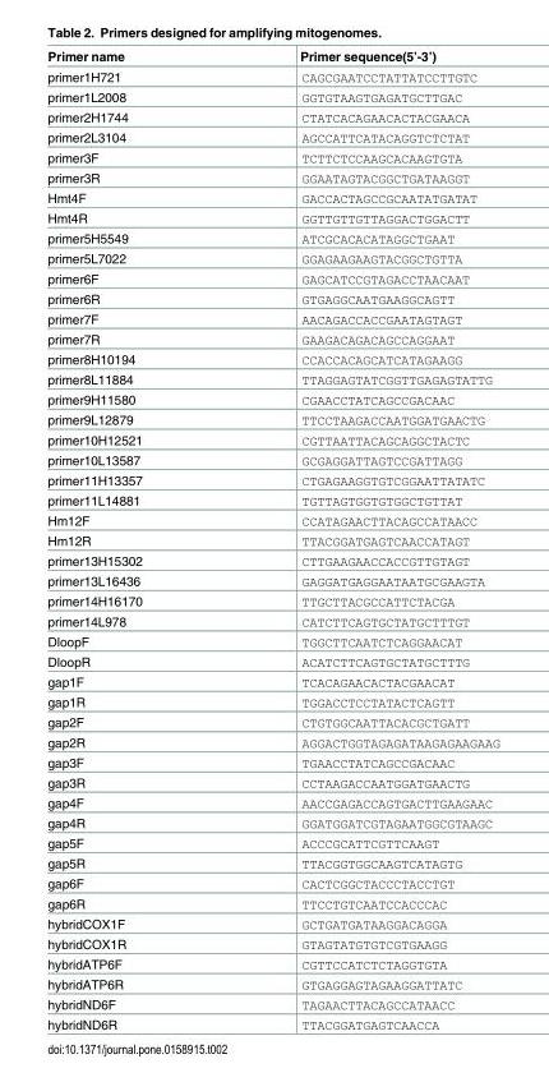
<table><thead><tr><td>Primer name</td><td>Primer sequence(5’-3’)</td></tr></thead><tbody><tr><td>primer1H721</td><td>CAGCGAATCCTATTATCCTTGTC</td></tr><tr><td>primer1L2008</td><td>GGTGTAAGTGAGATGCTTGAC</td></tr><tr><td>primer2H1744</td><td>CTATCACAGAACACTACGAACA</td></tr><tr><td>primer2L3104</td><td>AGCCATTCATACAGGTCTCTAT</td></tr><tr><td>primer3F</td><td>TCTTCTCCAAGCACAAGTGTA</td></tr><tr><td>primer3R</td><td>GGAATAGTACGGCTGATAAGGT</td></tr><tr><td>Hmt4F</td><td>GACCACTAGCCGCAATATGATAT</td></tr><tr><td>Hmt4R</td><td>GGTTGTTGTTAGGACTGGACTT</td></tr><tr><td>primer5H5549</td><td>ATCGCACACATAGGCTGAAT</td></tr><tr><td>primer5L7022</td><td>GGAGAAGAAGTACGGCTGTTA</td></tr><tr><td>primer6F</td><td>GAGCATCCGTAGACCTAACAAT</td></tr><tr><td>primer6R</td><td>GTGAGGCAATGAAGGCAGTT</td></tr><tr><td>primer7F</td><td>AACAGACCACCGAATAGTAGT</td></tr><tr><td>primer7R</td><td>GAAGACAGACAGCCAGGAAT</td></tr><tr><td>primer8H10194</td><td>CCACCACAGCATCATAGAAGG</td></tr><tr><td>primer8L11884</td><td>TTAGGAGTATCGGTTGAGAGTATTG</td></tr><tr><td>primer9H11580</td><td>CGAACCTATCAGCCGACAAC</td></tr><tr><td>primer9L12879</td><td>TTCCTAAGACCAATGGATGAACTG</td></tr><tr><td>primer10H12521</td><td>CGTTAATTACAGCAGGCTACTC</td></tr><tr><td>primer10L13587</td><td>GCGAGGATTAGTCCGATTAGG</td></tr><tr><td>primer11H13357</td><td>CTGAGAAGGTGTCGGAATTATATC</td></tr><tr><td>primer11L14881</td><td>TGTTAGTGGTGTGGCTGTTAT</td></tr><tr><td>Hm12F</td><td>CCATAGAACTTACAGCCATAACC</td></tr><tr><td>Hm12R</td><td>TTACGGATGAGTCAACCATAGT</td></tr><tr><td>primer13H15302</td><td>CTTGAAGAACCACCGTTGTAGT</td></tr><tr><td>primer13L16436</td><td>GAGGATGAGGAATAATGCGAAGTA</td></tr><tr><td>primer14H16170</td><td>TTGCTTACGCCATTCTACGA</td></tr><tr><td>primer14L978</td><td>CATCTTCAGTGCTATGCTTTGT</td></tr><tr><td>DloopF</td><td>TGGCTTCAATCTCAGGAACAT</td></tr><tr><td>DloopR</td><td>ACATCTTCAGTGCTATGCTTTG</td></tr><tr><td>gap1F</td><td>TCACAGAACACTACGAACAT</td></tr><tr><td>gap1R</td><td>TGGACCTCCTATACTCAGTT</td></tr><tr><td>gap2F</td><td>CTGTGGCAATTACACGCTGATT</td></tr><tr><td>gap2R</td><td>AGGACTGGTAGAGATAAGAGAAGAAG</td></tr><tr><td>gap3F</td><td>TGAACCTATCAGCCGACAAC</td></tr><tr><td>gap3R</td><td>CCTAAGACCAATGGATGAACTG</td></tr><tr><td>gap4F</td><td>AACCGAGACCAGTGACTTGAAGAAC</td></tr><tr><td>gap4R</td><td>GGATGGATCGTAGAATGGCGTAAGC</td></tr><tr><td>gap5F</td><td>ACCCGCATTCGTTCAAGT</td></tr><tr><td>gap5R</td><td>TTACGGTGGCAAGTCATAGTG</td></tr><tr><td>gap6F</td><td>CACTCGGCTACCCTACCTGT</td></tr><tr><td>gap6R</td><td>TTCCTGTCAATCCACCCAC</td></tr><tr><td>hybridCOX1F</td><td>GCTGATGATAAGGACAGGA</td></tr><tr><td>hybridCOX1R</td><td>GTAGTATGTGTCGTGAAGG</td></tr><tr><td>hybridATP6F</td><td>CGTTCCATCTCTAGGTGTA</td></tr><tr><td>hybridATP6R</td><td>GTGAGGAGTAGAAGGATTATC</td></tr><tr><td>hybridND6F</td><td>TAGAACTTACAGCCATAACC</td></tr><tr><td>hybridND6R</td><td>TTACGGATGAGTCAACCA</td></tr></tbody></table>